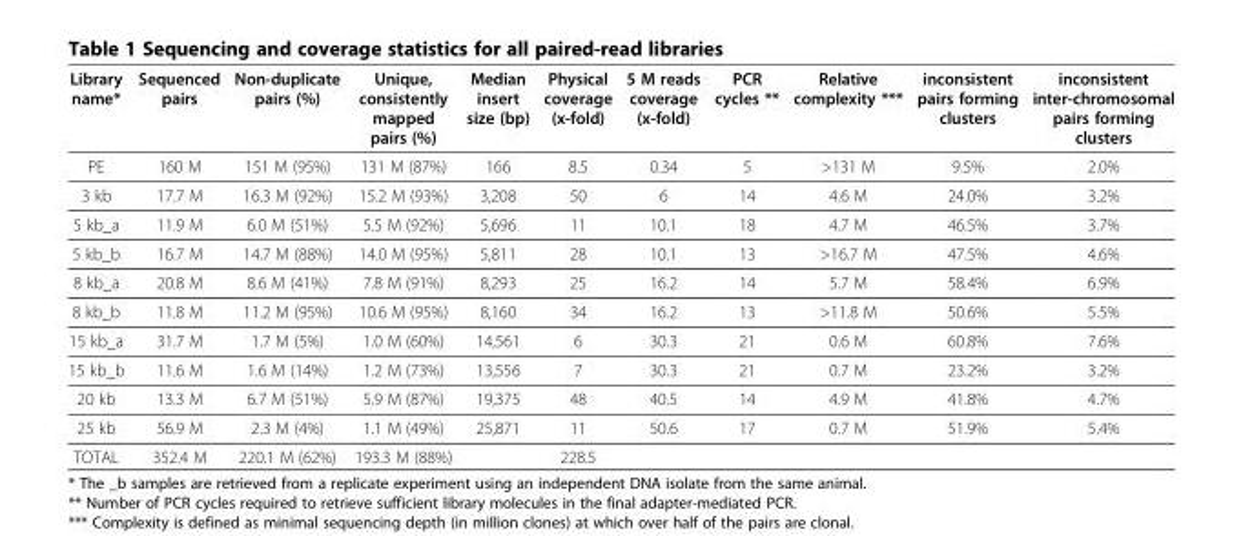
<table><thead><tr><td>Library name*</td><td>Sequenced pairs</td><td>Non-duplicate pairs (%)</td><td>Unique, consistently mapped pairs (%)</td><td>Median insert size (bp)</td><td>Physical coverage (x-fold)</td><td>5 M reads coverage (x-fold)</td><td>PCR cycles **</td><td>Relative complexity ***</td><td>inconsistent pairs forming clusters</td><td>inconsistent inter-chromosomal pairs forming clusters</td></tr></thead><tbody><tr><td>PE</td><td>160 M</td><td>151 M (95%)</td><td>131 M (87%)</td><td>166</td><td>8.5</td><td>0.34</td><td>5</td><td>&gt;131 M</td><td>9.5%</td><td>2.0%</td></tr><tr><td>3 kb</td><td>17.7 M</td><td>16.3 M (92%)</td><td>15.2 M (93%)</td><td>3,208</td><td>50</td><td>6</td><td>14</td><td>4.6 M</td><td>24.0%</td><td>3.2%</td></tr><tr><td>5 kb_a</td><td>11.9 M</td><td>6.0 M (51%)</td><td>5.5 M (92%)</td><td>5,696</td><td>11</td><td>10.1</td><td>18</td><td>4.7 M</td><td>46.5%</td><td>3.7%</td></tr><tr><td>5 kb_b</td><td>16.7 M</td><td>14.7 M (88%)</td><td>14.0 M (95%)</td><td>5,811</td><td>28</td><td>10.1</td><td>13</td><td>&gt;16.7 M</td><td>47.5%</td><td>4.6%</td></tr><tr><td>8 kb_a</td><td>20.8 M</td><td>8.6 M (41%)</td><td>7.8 M (91%)</td><td>8,293</td><td>25</td><td>16.2</td><td>14</td><td>5.7 M</td><td>58.4%</td><td>6.9%</td></tr><tr><td>8 kb_b</td><td>11.8 M</td><td>11.2 M (95%)</td><td>10.6 M (95%)</td><td>8,160</td><td>34</td><td>16.2</td><td>13</td><td>&gt;11.8 M</td><td>50.6%</td><td>5.5%</td></tr><tr><td>15 kb_a</td><td>31.7 M</td><td>1.7 M (5%)</td><td>1.0 M (60%)</td><td>14,561</td><td>6</td><td>30.3</td><td>21</td><td>0.6 M</td><td>60.8%</td><td>7.6%</td></tr><tr><td>15 kb_b</td><td>11.6 M</td><td>1.6 M (14%)</td><td>1.2 M (73%)</td><td>13,556</td><td>7</td><td>30.3</td><td>21</td><td>0.7 M</td><td>23.2%</td><td>3.2%</td></tr><tr><td>20 kb</td><td>13.3 M</td><td>6.7 M (51%)</td><td>5.9 M (87%)</td><td>19,375</td><td>48</td><td>40.5</td><td>14</td><td>4.9 M</td><td>41.8%</td><td>4.7%</td></tr><tr><td>25 kb</td><td>56.9 M</td><td>2.3 M (4%)</td><td>1.1 M (49%)</td><td>25,871</td><td>11</td><td>50.6</td><td>17</td><td>0.7 M</td><td>51.9%</td><td>5.4%</td></tr><tr><td>TOTAL</td><td>352.4 M</td><td>220.1 M (62%)</td><td>193.3 M (88%)</td><td></td><td>228.5</td><td></td><td></td><td></td><td></td><td></td></tr></tbody></table>